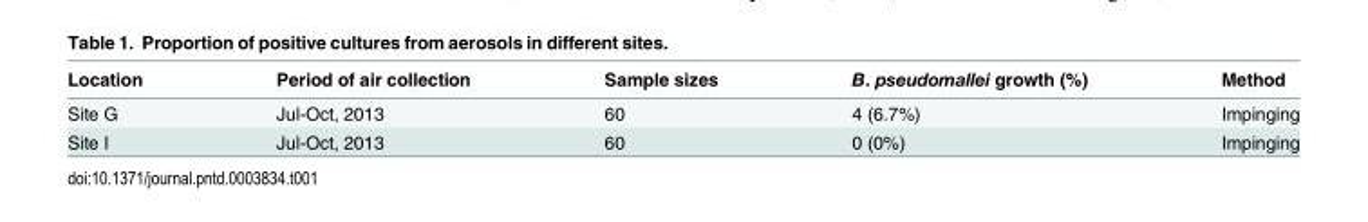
<table><thead><tr><td>Location</td><td>Period of air collection</td><td>Sample sizes</td><td>B. pseudomallei growth (%)</td><td>Method</td></tr></thead><tbody><tr><td>Site G</td><td>Jul-Oct, 2013</td><td>60</td><td>4 (6.7%)</td><td>Impinging</td></tr><tr><td>Site I</td><td>Jul-Oct, 2013</td><td>60</td><td>0 (0%)</td><td>Impinging</td></tr></tbody></table>